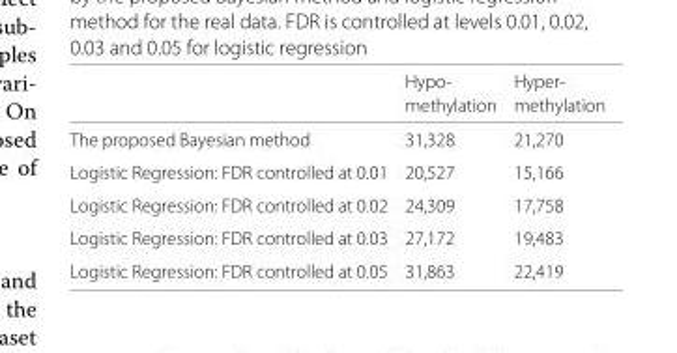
<table><thead><tr><td rowspan="2"></td><td rowspan="2">Hypo- methylation</td><td rowspan="2">Hyper- methylation</td></tr><tr></tr></thead><tbody><tr><td>The proposed Bayesian method</td><td>31,328</td><td>21,270</td></tr><tr><td>Logistic Regression: FDR controlled at 0.01</td><td>20,527</td><td>15,166</td></tr><tr><td>Logistic Regression: FDR controlled at 0.02</td><td>24,309</td><td>17,758</td></tr><tr><td>Logistic Regression: FDR controlled at 0.03</td><td>27,172</td><td>19,483</td></tr><tr><td>Logistic Regression: FDR controlled at 0.05</td><td>31,863</td><td>22,419</td></tr></tbody></table>